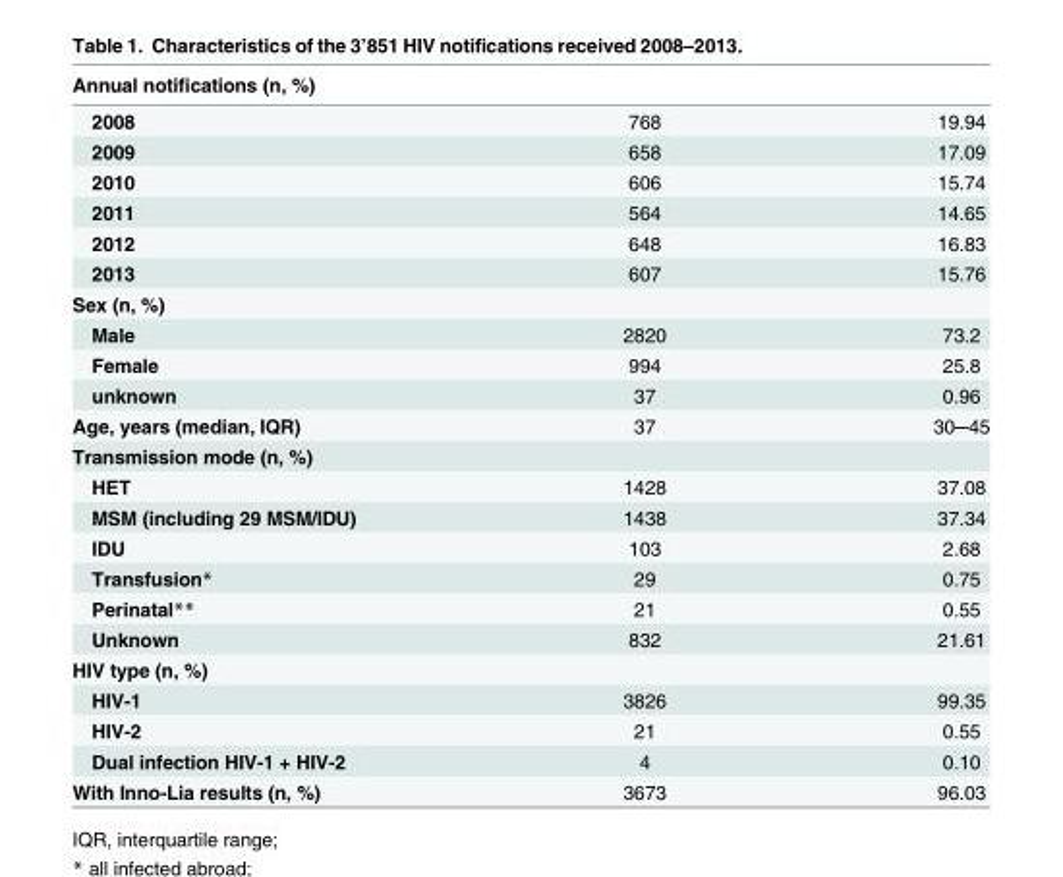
<table><thead><tr><td>Annual notifications (n, %)</td><td></td><td></td></tr></thead><tbody><tr><td>2008</td><td>768</td><td>19.94</td></tr><tr><td>2009</td><td>658</td><td>17.09</td></tr><tr><td>2010</td><td>606</td><td>15.74</td></tr><tr><td>2011</td><td>564</td><td>14.65</td></tr><tr><td>2012</td><td>648</td><td>16.83</td></tr><tr><td>2013</td><td>607</td><td>15.76</td></tr><tr><td colspan="3">Sex (n, %)</td></tr><tr><td>Male</td><td>2820</td><td>73.2</td></tr><tr><td>Female</td><td>994</td><td>25.8</td></tr><tr><td>unknown</td><td>37</td><td>0.96</td></tr><tr><td>Age, years (median, IQR)</td><td>37</td><td>30─45</td></tr><tr><td colspan="3">Transmission mode (n, %)</td></tr><tr><td>HET</td><td>1428</td><td>37.08</td></tr><tr><td>MSM (including 29 MSM/IDU)</td><td>1438</td><td>37.34</td></tr><tr><td>IDU</td><td>103</td><td>2.68</td></tr><tr><td>Transfusion*</td><td>29</td><td>0.75</td></tr><tr><td>Perinatal**</td><td>21</td><td>0.55</td></tr><tr><td>Unknown</td><td>832</td><td>21.61</td></tr><tr><td colspan="3">HIV type (n, %)</td></tr><tr><td>HIV-1</td><td>3826</td><td>99.35</td></tr><tr><td>HIV-2</td><td>21</td><td>0.55</td></tr><tr><td>Dual infection HIV-1 + HIV-2</td><td>4</td><td>0.10</td></tr><tr><td>With Inno-Lia results (n, %)</td><td>3673</td><td>96.03</td></tr></tbody></table>